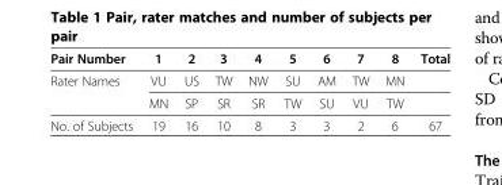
<table><thead><tr><td>Pair Number</td><td>1</td><td>2</td><td>3</td><td>4</td><td>5</td><td>6</td><td>7</td><td>8</td><td>Total</td></tr></thead><tbody><tr><td rowspan="2">Rater Names</td><td>VU</td><td>US</td><td>TW</td><td>NW</td><td>SU</td><td>AM</td><td>TW</td><td>MN</td><td></td></tr><tr><td>MN</td><td>SP</td><td>SR</td><td>SR</td><td>TW</td><td>SU</td><td>VU</td><td>TW</td><td></td></tr><tr><td>No. of Subjects</td><td>19</td><td>16</td><td>10</td><td>8</td><td>3</td><td>3</td><td>2</td><td>6</td><td>67</td></tr></tbody></table>